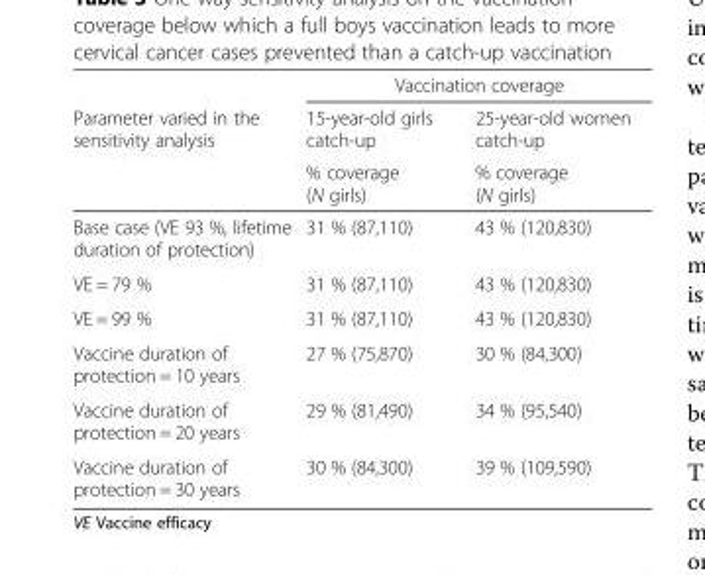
<table><thead><tr><td rowspan="3">Parameter varied in the sensitivity analysis</td><td colspan="2">Vaccination coverage</td></tr><tr><td rowspan="2">15-year-old girls catch-up % coverage (N girls)</td><td rowspan="2">25-year-old women catch-up % coverage (N girls)</td></tr><tr></tr></thead><tbody><tr><td>Base case (VE 93 %, lifetime duration of protection)</td><td>31 % (87,110)</td><td>43 % (120,830)</td></tr><tr><td>VE = 79 %</td><td>31 % (87,110)</td><td>43 % (120,830)</td></tr><tr><td>VE = 99 %</td><td>31 % (87,110)</td><td>43 % (120,830)</td></tr><tr><td>Vaccine duration of protection = 10 years</td><td>27 % (75,870)</td><td>30 % (84,300)</td></tr><tr><td>Vaccine duration of protection = 20 years</td><td>29 % (81,490)</td><td>34 % (95,540)</td></tr><tr><td>Vaccine duration of protection = 30 years</td><td>30 % (84,300)</td><td>39 % (109,590)</td></tr></tbody></table>